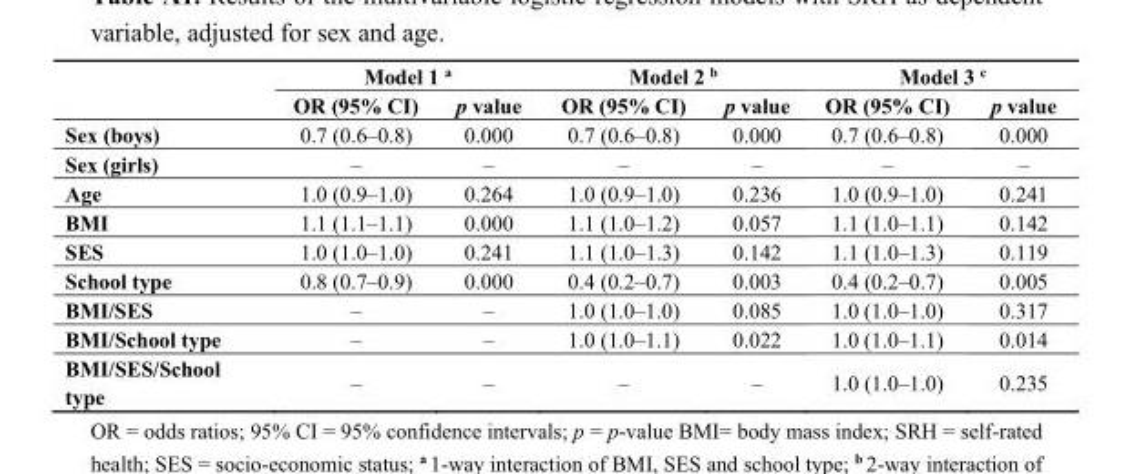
<table><thead><tr><td rowspan="2"></td><td colspan="2">Model 1 <sup>a</sup></td><td colspan="2">Model 2 <sup>b</sup></td><td colspan="2">Model 3 <sup>c</sup></td></tr><tr><td>OR (95% CI)</td><td>p value</td><td>OR (95% CI)</td><td>p value</td><td>OR (95% CI)</td><td>p value</td></tr></thead><tbody><tr><td>Sex (boys)</td><td>0.7 (0.6–0.8)</td><td>0.000</td><td>0.7 (0.6–0.8)</td><td>0.000</td><td>0.7 (0.6–0.8)</td><td>0.000</td></tr><tr><td>Sex (girls)</td><td>–</td><td>–</td><td>–</td><td>–</td><td>–</td><td>–</td></tr><tr><td>Age</td><td>1.0 (0.9–1.0)</td><td>0.264</td><td>1.0 (0.9–1.0)</td><td>0.236</td><td>1.0 (0.9–1.0)</td><td>0.241</td></tr><tr><td>BMI</td><td>1.1 (1.1–1.1)</td><td>0.000</td><td>1.1 (1.0–1.2)</td><td>0.057</td><td>1.1 (1.0–1.1)</td><td>0.142</td></tr><tr><td>SES</td><td>1.0 (1.0–1.0)</td><td>0.241</td><td>1.1 (1.0–1.3)</td><td>0.142</td><td>1.1 (1.0–1.3)</td><td>0.119</td></tr><tr><td>School type</td><td>0.8 (0.7–0.9)</td><td>0.000</td><td>0.4 (0.2–0.7)</td><td>0.003</td><td>0.4 (0.2–0.7)</td><td>0.005</td></tr><tr><td>BMI/SES</td><td>–</td><td>–</td><td>1.0 (1.0–1.0)</td><td>0.085</td><td>1.0 (1.0–1.0)</td><td>0.317</td></tr><tr><td>BMI/School type</td><td>–</td><td>–</td><td>1.0 (1.0–1.1)</td><td>0.022</td><td>1.0 (1.0–1.1)</td><td>0.014</td></tr><tr><td>BMI/SES/School type</td><td>–</td><td>–</td><td>–</td><td>–</td><td>1.0 (1.0–1.0)</td><td>0.235</td></tr></tbody></table>